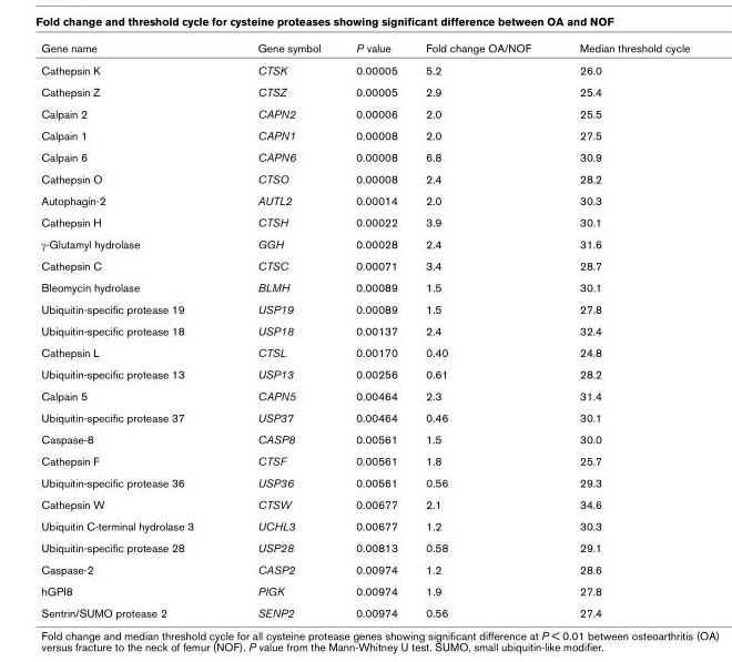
<table><thead><tr><td>Gene name</td><td>Gene symbol</td><td>P value</td><td>Fold change OA/NOF</td><td>Median threshold cycle</td></tr></thead><tbody><tr><td>Cathepsin K</td><td>CTSK</td><td>0.00005</td><td>5.2</td><td>26.0</td></tr><tr><td>Cathepsin Z</td><td>CTSZ</td><td>0.00005</td><td>2.9</td><td>25.4</td></tr><tr><td>Calpain 2</td><td>CAPN2</td><td>0.00006</td><td>2.0</td><td>25.5</td></tr><tr><td>Calpain 1</td><td>CAPN1</td><td>0.00008</td><td>2.0</td><td>27.5</td></tr><tr><td>Calpain 6</td><td>CAPN6</td><td>0.00008</td><td>6.8</td><td>30.9</td></tr><tr><td>Cathepsin O</td><td>CTSO</td><td>0.00008</td><td>2.4</td><td>28.2</td></tr><tr><td>Autophagin-2</td><td>AUTL2</td><td>0.00014</td><td>2.0</td><td>30.3</td></tr><tr><td>Cathepsin H</td><td>CTSH</td><td>0.00022</td><td>3.9</td><td>30.1</td></tr><tr><td>γ-Glutamyl hydrolase</td><td>GGH</td><td>0.00028</td><td>2.4</td><td>31.6</td></tr><tr><td>Cathepsin C</td><td>CTSC</td><td>0.00071</td><td>3.4</td><td>28.7</td></tr><tr><td>Bleomycin hydrolase</td><td>BLMH</td><td>0.00089</td><td>1.5</td><td>30.1</td></tr><tr><td>Ubiquitin-specific protease 19</td><td>USP19</td><td>0.00089</td><td>1.5</td><td>27.8</td></tr><tr><td>Ubiquitin-specific protease 18</td><td>USP18</td><td>0.00137</td><td>2.4</td><td>32.4</td></tr><tr><td>Cathepsin L</td><td>CTSL</td><td>0.00170</td><td>0.40</td><td>24.8</td></tr><tr><td>Ubiquitin-specific protease 13</td><td>USP13</td><td>0.00256</td><td>0.61</td><td>28.2</td></tr><tr><td>Calpain 5</td><td>CAPN5</td><td>0.00464</td><td>2.3</td><td>31.4</td></tr><tr><td>Ubiquitin-specific protease 37</td><td>USP37</td><td>0.00464</td><td>0.46</td><td>30.1</td></tr><tr><td>Caspase-8</td><td>CASP8</td><td>0.00561</td><td>1.5</td><td>30.0</td></tr><tr><td>Cathepsin F</td><td>CTSF</td><td>0.00561</td><td>1.8</td><td>25.7</td></tr><tr><td>Ubiquitin-specific protease 36</td><td>USP36</td><td>0.00561</td><td>0.56</td><td>29.3</td></tr><tr><td>Cathepsin W</td><td>CTSW</td><td>0.00677</td><td>2.1</td><td>34.6</td></tr><tr><td>Ubiquitin C-terminal hydrolase 3</td><td>UCHL3</td><td>0.00677</td><td>1.2</td><td>30.3</td></tr><tr><td>Ubiquitin-specific protease 28</td><td>USP28</td><td>0.00813</td><td>0.58</td><td>29.1</td></tr><tr><td>Caspase-2</td><td>CASP2</td><td>0.00974</td><td>1.2</td><td>28.6</td></tr><tr><td>hGPI8</td><td>PIGK</td><td>0.00974</td><td>1.9</td><td>27.8</td></tr><tr><td>Sentrin/SUMO protease 2</td><td>SENP2</td><td>0.00974</td><td>0.56</td><td>27.4</td></tr></tbody></table>